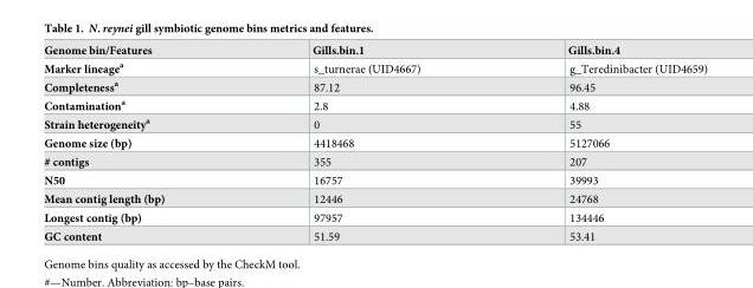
<table><thead><tr><td>Genome bin/Features</td><td>Gills.bin.1</td><td>Gills.bin.4</td></tr></thead><tbody><tr><td>Marker lineage<sup>a</sup></td><td>s_turnerae (UID4667)</td><td>g_Teredinibacter (UID4659)</td></tr><tr><td>Completeness<sup>a</sup></td><td>87.12</td><td>96.45</td></tr><tr><td>Contamination<sup>a</sup></td><td>2.8</td><td>4.88</td></tr><tr><td>Strain heterogeneity<sup>a</sup></td><td>0</td><td>55</td></tr><tr><td>Genome size (bp)</td><td>4418468</td><td>5127066</td></tr><tr><td># contigs</td><td>355</td><td>207</td></tr><tr><td>N50</td><td>16757</td><td>39993</td></tr><tr><td>Mean contig length (bp)</td><td>12446</td><td>24768</td></tr><tr><td>Longest contig (bp)</td><td>97957</td><td>134446</td></tr><tr><td>GC content</td><td>51.59</td><td>53.41</td></tr></tbody></table>